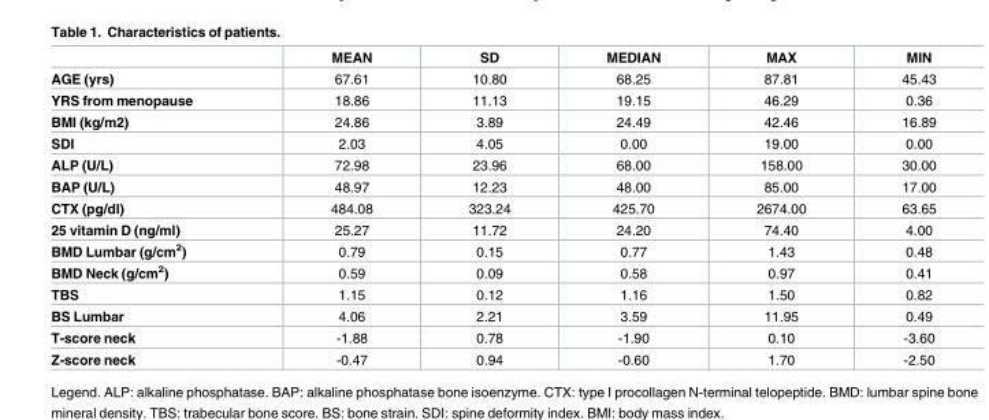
<table><thead><tr><td></td><td>MEAN</td><td>SD</td><td>MEDIAN</td><td>MAX</td><td>MIN</td></tr></thead><tbody><tr><td>AGE (yrs)</td><td>67.61</td><td>10.80</td><td>68.25</td><td>87.81</td><td>45.43</td></tr><tr><td>YRS from menopause</td><td>18.86</td><td>11.13</td><td>19.15</td><td>46.29</td><td>0.36</td></tr><tr><td>BMI (kg/m2)</td><td>24.86</td><td>3.89</td><td>24.49</td><td>42.46</td><td>16.89</td></tr><tr><td>SDI</td><td>2.03</td><td>4.05</td><td>0.00</td><td>19.00</td><td>0.00</td></tr><tr><td>ALP (U/L)</td><td>72.98</td><td>23.96</td><td>68.00</td><td>158.00</td><td>30.00</td></tr><tr><td>BAP (U/L)</td><td>48.97</td><td>12.23</td><td>48.00</td><td>85.00</td><td>17.00</td></tr><tr><td>CTX (pg/dl)</td><td>484.08</td><td>323.24</td><td>425.70</td><td>2674.00</td><td>63.65</td></tr><tr><td>25 vitamin D (ng/ml)</td><td>25.27</td><td>11.72</td><td>24.20</td><td>74.40</td><td>4.00</td></tr><tr><td>BMD Lumbar (g/cm2)</td><td>0.79</td><td>0.15</td><td>0.77</td><td>1.43</td><td>0.48</td></tr><tr><td>BMD Neck (g/cm2)</td><td>0.59</td><td>0.09</td><td>0.58</td><td>0.97</td><td>0.41</td></tr><tr><td>TBS</td><td>1.15</td><td>0.12</td><td>1.16</td><td>1.50</td><td>0.82</td></tr><tr><td>BS Lumbar</td><td>4.06</td><td>2.21</td><td>3.59</td><td>11.95</td><td>0.49</td></tr><tr><td>T-score neck</td><td>-1.88</td><td>0.78</td><td>-1.90</td><td>0.10</td><td>-3.60</td></tr><tr><td>Z-score neck</td><td>-0.47</td><td>0.94</td><td>-0.60</td><td>1.70</td><td>-2.50</td></tr></tbody></table>